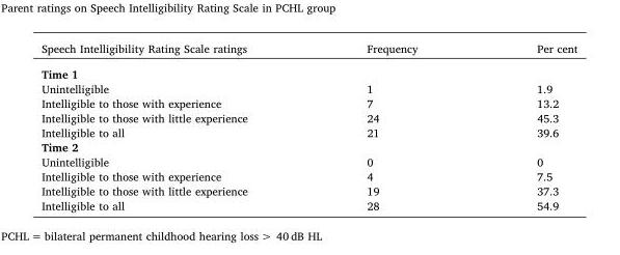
<table><thead><tr><td>Speech Intelligibility Rating Scale ratings</td><td>Frequency</td><td>Per cent</td></tr></thead><tbody><tr><td colspan="3">Time 1</td></tr><tr><td>Unintelligible</td><td>1</td><td>1.9</td></tr><tr><td>Intelligible to those with experience</td><td>7</td><td>13.2</td></tr><tr><td>Intelligible to those with little experience</td><td>24</td><td>45.3</td></tr><tr><td>Intelligible to all</td><td>21</td><td>39.6</td></tr><tr><td colspan="3">Time 2</td></tr><tr><td>Unintelligible</td><td>0</td><td>0</td></tr><tr><td>Intelligible to those with experience</td><td>4</td><td>7.5</td></tr><tr><td>Intelligible to those with little experience</td><td>19</td><td>37.3</td></tr><tr><td>Intelligible to all</td><td>28</td><td>54.9</td></tr></tbody></table>